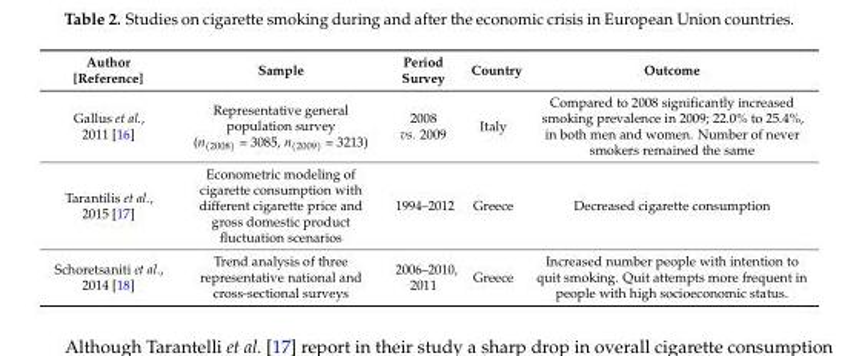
<table><thead><tr><td>Author [Reference]</td><td>Sample</td><td>Period Survey</td><td>Country</td><td>Outcome</td></tr></thead><tbody><tr><td>Gallus et al., 2011 [16]</td><td>Representative general population survey (np2008q = 3085, np2009q = 3213)</td><td>2008 vs. 2009</td><td>Italy</td><td>Compared to 2008 significantly increased smoking prevalence in 2009; 22.0% to 25.4%, in both men and women. Number of never smokers remained the same</td></tr><tr><td>Tarantilis et al., 2015 [17]</td><td>Econometric modeling of cigarette consumption with different cigarette price and gross domestic product fluctuation scenarios</td><td>1994–2012</td><td>Greece</td><td>Decreased cigarette consumption</td></tr><tr><td>Schoretsaniti et al., 2014 [18]</td><td>Trend analysis of three representative national and cross-sectional surveys</td><td>2006–2010, 2011</td><td>Greece</td><td>Increased number people with intention to quit smoking. Quit attempts more frequent in people with high socioeconomic status.</td></tr></tbody></table>